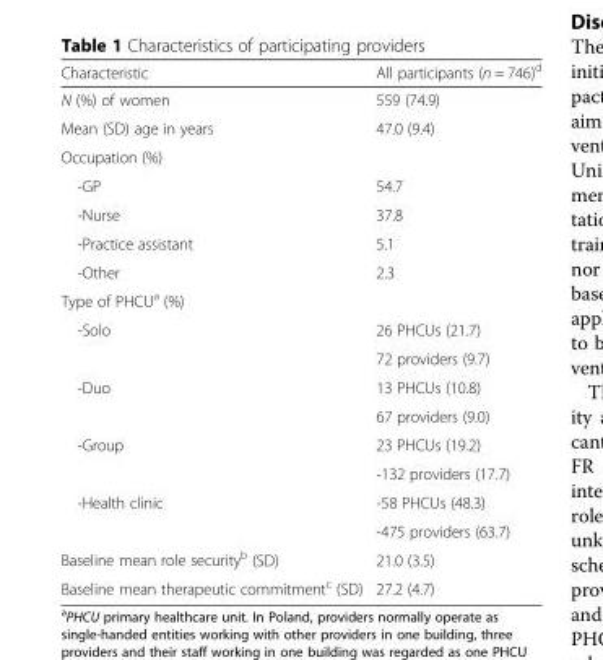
<table><thead><tr><td>Characteristic</td><td>All participants (n = 746)<sup>d</sup></td></tr></thead><tbody><tr><td>N (%) of women</td><td>559 (74.9)</td></tr><tr><td>Mean (SD) age in years</td><td>47.0 (9.4)</td></tr><tr><td colspan="2">Occupation (%)</td></tr><tr><td>-GP</td><td>54.7</td></tr><tr><td>-Nurse</td><td>37.8</td></tr><tr><td>-Practice assistant</td><td>5.1</td></tr><tr><td>-Other</td><td>2.3</td></tr><tr><td colspan="2">Type of PHCU<sup>a</sup> (%)</td></tr><tr><td rowspan="2">-Solo</td><td>26 PHCUs (21.7)</td></tr><tr><td>72 providers (9.7)</td></tr><tr><td rowspan="2">-Duo</td><td>13 PHCUs (10.8)</td></tr><tr><td>67 providers (9.0)</td></tr><tr><td rowspan="2">-Group</td><td>23 PHCUs (19.2)</td></tr><tr><td>-132 providers (17.7)</td></tr><tr><td rowspan="2">-Health clinic</td><td>-58 PHCUs (48.3)</td></tr><tr><td>-475 providers (63.7)</td></tr><tr><td>Baseline mean role security<sup>b</sup> (SD)</td><td>21.0 (3.5)</td></tr><tr><td>Baseline mean therapeutic commitment<sup>c</sup> (SD)</td><td>27.2 (4.7)</td></tr></tbody></table>